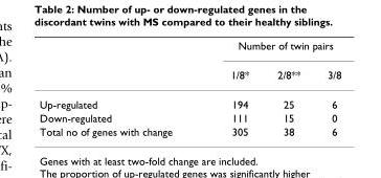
<table><thead><tr><td rowspan="2"></td><td colspan="3">Number of twin pairs</td></tr><tr><td>1/8*</td><td>2/8**</td><td>3/8</td></tr></thead><tbody><tr><td>Up-regulated</td><td>194</td><td>25</td><td>6</td></tr><tr><td>Down-regulated</td><td>111</td><td>15</td><td>0</td></tr><tr><td>Total no of genes with change</td><td>305</td><td>38</td><td>6</td></tr></tbody></table>